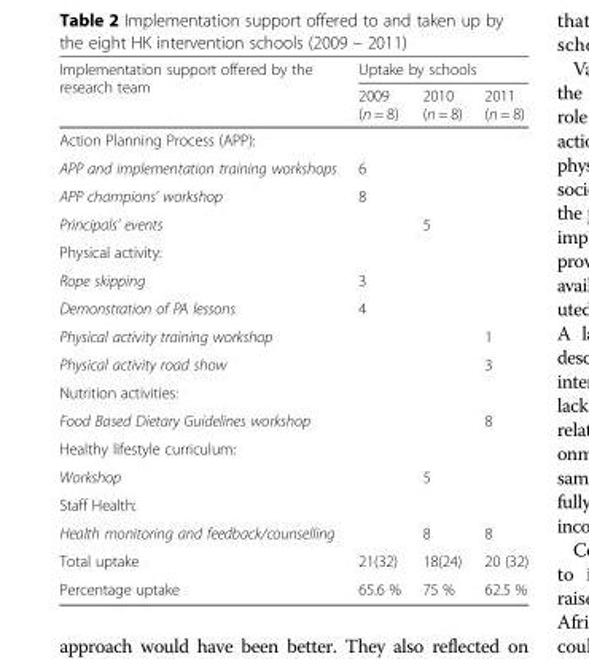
<table><thead><tr><td rowspan="2">Implementation support offered by the research team</td><td colspan="3">Uptake by schools</td></tr><tr><td>2009 (n = 8)</td><td>2010 (n = 8)</td><td>2011 (n = 8)</td></tr></thead><tbody><tr><td colspan="4">Action Planning Process (APP):</td></tr><tr><td>APP and implementation training workshops</td><td>6</td><td></td><td></td></tr><tr><td>APP champions’ workshop</td><td>8</td><td></td><td></td></tr><tr><td>Principals’ events</td><td></td><td>5</td><td></td></tr><tr><td colspan="4">Physical activity:</td></tr><tr><td>Rope skipping</td><td>3</td><td></td><td></td></tr><tr><td>Demonstration of PA lessons</td><td>4</td><td></td><td></td></tr><tr><td>Physical activity training workshop</td><td></td><td></td><td>1</td></tr><tr><td>Physical activity road show</td><td></td><td></td><td>3</td></tr><tr><td colspan="4">Nutrition activities:</td></tr><tr><td>Food Based Dietary Guidelines workshop</td><td></td><td></td><td>8</td></tr><tr><td colspan="4">Healthy lifestyle curriculum:</td></tr><tr><td>Workshop</td><td></td><td>5</td><td></td></tr><tr><td colspan="4">Staff Health:</td></tr><tr><td>Health monitoring and feedback/counselling</td><td></td><td>8</td><td>8</td></tr><tr><td>Total uptake</td><td>21(32)</td><td>18(24)</td><td>20 (32)</td></tr><tr><td>Percentage uptake</td><td>65.6 %</td><td>75 %</td><td>62.5 %</td></tr></tbody></table>